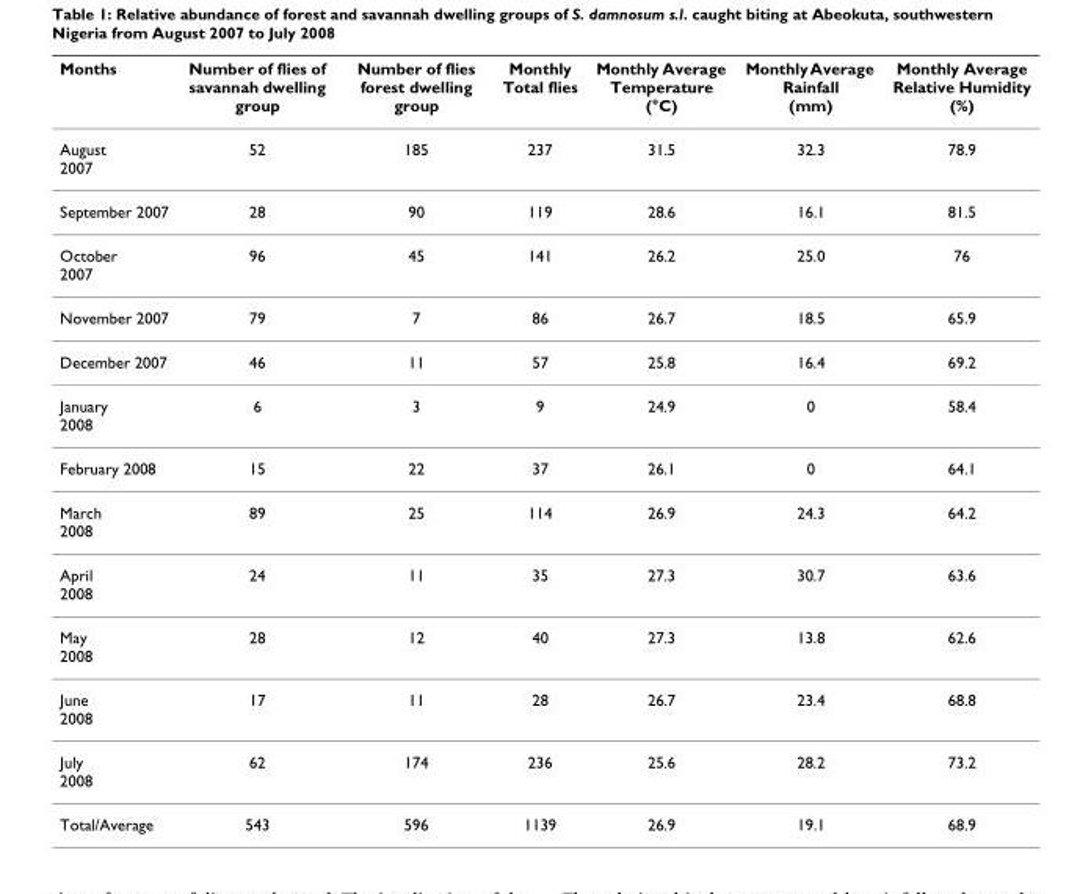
<table><thead><tr><td>Months</td><td>Number of flies of savannah dwelling group</td><td>Number of flies forest dwelling group</td><td>Monthly Total flies</td><td>Monthly Average Temperature (°C)</td><td>Monthly Average Rainfall (mm)</td><td>Monthly Average Relative Humidity (%)</td></tr></thead><tbody><tr><td>August 2007</td><td>52</td><td>185</td><td>237</td><td>31.5</td><td>32.3</td><td>78.9</td></tr><tr><td>September 2007</td><td>28</td><td>90</td><td>119</td><td>28.6</td><td>16.1</td><td>81.5</td></tr><tr><td>October 2007</td><td>96</td><td>45</td><td>141</td><td>26.2</td><td>25.0</td><td>76</td></tr><tr><td>November 2007</td><td>79</td><td>7</td><td>86</td><td>26.7</td><td>18.5</td><td>65.9</td></tr><tr><td>December 2007</td><td>46</td><td>11</td><td>57</td><td>25.8</td><td>16.4</td><td>69.2</td></tr><tr><td>January 2008</td><td>6</td><td>3</td><td>9</td><td>24.9</td><td>0</td><td>58.4</td></tr><tr><td>February 2008</td><td>15</td><td>22</td><td>37</td><td>26.1</td><td>0</td><td>64.1</td></tr><tr><td>March 2008</td><td>89</td><td>25</td><td>114</td><td>26.9</td><td>24.3</td><td>64.2</td></tr><tr><td>April 2008</td><td>24</td><td>11</td><td>35</td><td>27.3</td><td>30.7</td><td>63.6</td></tr><tr><td>May 2008</td><td>28</td><td>12</td><td>40</td><td>27.3</td><td>13.8</td><td>62.6</td></tr><tr><td>June 2008</td><td>17</td><td>11</td><td>28</td><td>26.7</td><td>23.4</td><td>68.8</td></tr><tr><td>July 2008</td><td>62</td><td>174</td><td>236</td><td>25.6</td><td>28.2</td><td>73.2</td></tr><tr><td>Total/Average</td><td>543</td><td>596</td><td>1139</td><td>26.9</td><td>19.1</td><td>68.9</td></tr></tbody></table>